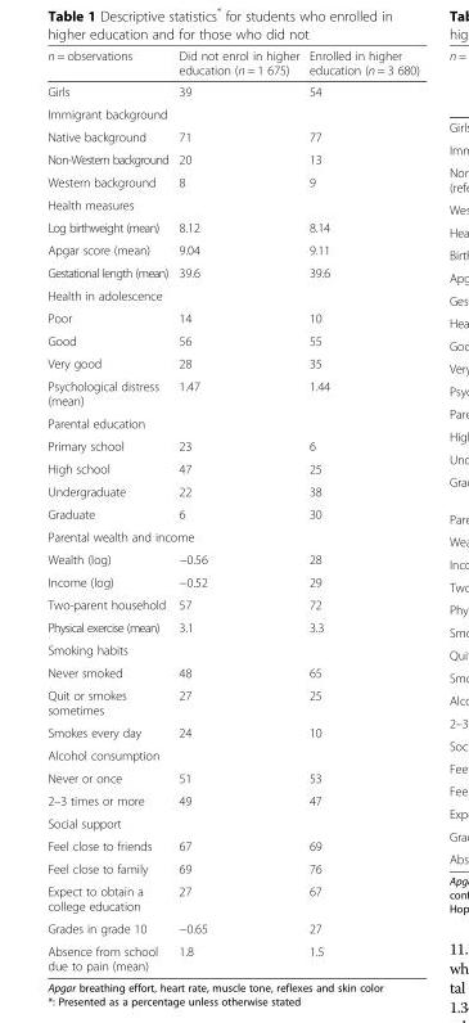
<table><thead><tr><td>n = observations</td><td>Did not enrol in higher education (n = 1 675)</td><td>Enrolled in higher education (n = 3 680)</td></tr></thead><tbody><tr><td>Girls</td><td>39</td><td>54</td></tr><tr><td colspan="3">Immigrant background</td></tr><tr><td>Native background</td><td>71</td><td>77</td></tr><tr><td>Non-Western background</td><td>20</td><td>13</td></tr><tr><td>Western background</td><td>8</td><td>9</td></tr><tr><td colspan="3">Health measures</td></tr><tr><td>Log birthweight (mean)</td><td>8.12</td><td>8.14</td></tr><tr><td>Apgar score (mean)</td><td>9.04</td><td>9.11</td></tr><tr><td>Gestational length (mean)</td><td>39.6</td><td>39.6</td></tr><tr><td colspan="3">Health in adolescence</td></tr><tr><td>Poor</td><td>14</td><td>10</td></tr><tr><td>Good</td><td>56</td><td>55</td></tr><tr><td>Very good</td><td>28</td><td>35</td></tr><tr><td>Psychological distress (mean)</td><td>1.47</td><td>1.44</td></tr><tr><td colspan="3">Parental education</td></tr><tr><td>Primary school</td><td>23</td><td>6</td></tr><tr><td>High school</td><td>47</td><td>25</td></tr><tr><td>Undergraduate</td><td>22</td><td>38</td></tr><tr><td>Graduate</td><td>6</td><td>30</td></tr><tr><td colspan="3">Parental wealth and income</td></tr><tr><td>Wealth (log)</td><td>−0.56</td><td>28</td></tr><tr><td>Income (log)</td><td>−0.52</td><td>29</td></tr><tr><td>Two-parent household</td><td>57</td><td>72</td></tr><tr><td>Physical exercise (mean)</td><td>3.1</td><td>3.3</td></tr><tr><td colspan="3">Smoking habits</td></tr><tr><td>Never smoked</td><td>48</td><td>65</td></tr><tr><td>Quit or smokes sometimes</td><td>27</td><td>25</td></tr><tr><td>Smokes every day</td><td>24</td><td>10</td></tr><tr><td colspan="3">Alcohol consumption</td></tr><tr><td>Never or once</td><td>51</td><td>53</td></tr><tr><td>2–3 times or more</td><td>49</td><td>47</td></tr><tr><td colspan="3">Social support</td></tr><tr><td>Feel close to friends</td><td>67</td><td>69</td></tr><tr><td>Feel close to family</td><td>69</td><td>76</td></tr><tr><td>Expect to obtain a college education</td><td>27</td><td>67</td></tr><tr><td>Grades in grade 10</td><td>−0.65</td><td>27</td></tr><tr><td>Absence from school due to pain (mean)</td><td>1.8</td><td>1.5</td></tr></tbody></table>